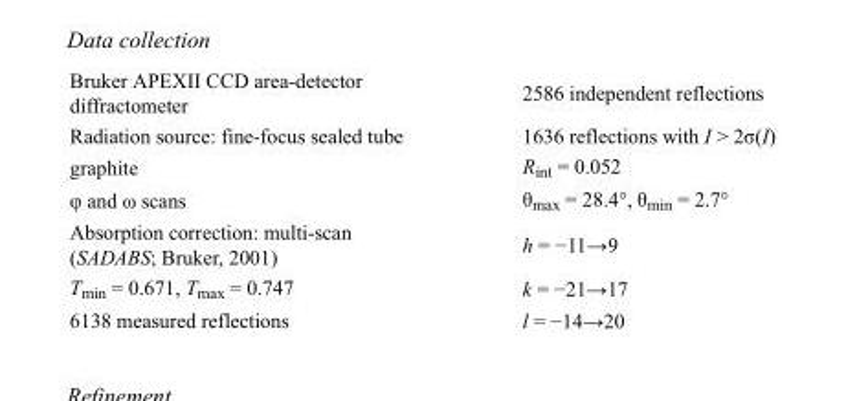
<table><tbody><tr><td>Bruker APEXII CCD area-detector diffractometer</td><td>2586 independent reflections</td></tr><tr><td>Radiation source: fine-focus sealed tube</td><td>1636 reflections with I &gt; 2σ(I)</td></tr><tr><td>graphite</td><td>R<sub>int</sub> = 0.052</td></tr><tr><td>φ and ω scans</td><td>θ<sub>max</sub> = 28.4°, θ<sub>min</sub> = 2.7°</td></tr><tr><td>Absorption correction: multi-scan (SADABS; Bruker, 2001)</td><td>h = −11→9</td></tr><tr><td>T<sub>min</sub> = 0.671, T<sub>max</sub> = 0.747</td><td>k = −21→17</td></tr><tr><td>6138 measured reflections</td><td>l = −14→20</td></tr></tbody></table>